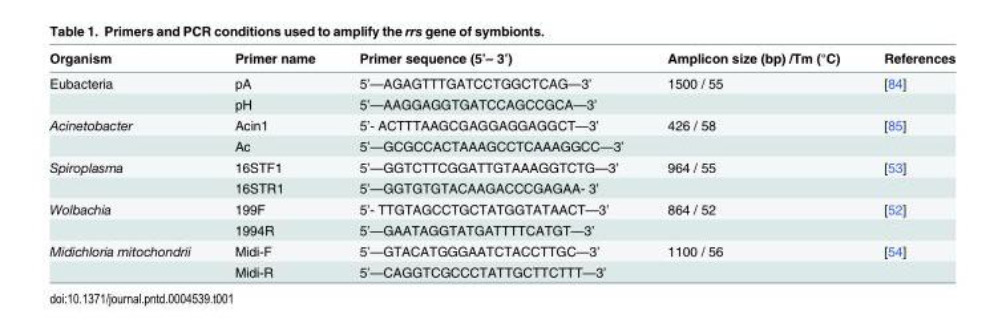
<table><thead><tr><td>Organism</td><td>Primer name</td><td>Primer sequence (5’– 3’)</td><td>Amplicon size (bp) /Tm (°C)</td><td>References</td></tr></thead><tbody><tr><td rowspan="2">Eubacteria</td><td>pA</td><td>5’—AGAGTTTGATCCTGGCTCAG—3’</td><td>1500 / 55</td><td>[84]</td></tr><tr><td>pH</td><td>5’—AAGGAGGTGATCCAGCCGCA—3’</td><td></td><td></td></tr><tr><td rowspan="2">Acinetobacter</td><td>Acin1</td><td>5’- ACTTTAAGCGAGGAGGAGGCT—3’</td><td>426 / 58</td><td>[85]</td></tr><tr><td>Ac</td><td>5’—GCGCCACTAAAGCCTCAAAGGCC—3’</td><td></td><td></td></tr><tr><td rowspan="2">Spiroplasma</td><td>16STF1</td><td>5’—GGTCTTCGGATTGTAAAGGTCTG—3’</td><td>964 / 55</td><td>[53]</td></tr><tr><td>16STR1</td><td>5’—GGTGTGTACAAGACCCGAGAA- 3’</td><td></td><td></td></tr><tr><td rowspan="2">Wolbachia</td><td>199F</td><td>5’- TTGTAGCCTGCTATGGTATAACT—3’</td><td>864 / 52</td><td>[52]</td></tr><tr><td>1994R</td><td>5’—GAATAGGTATGATTTTCATGT—3’</td><td></td><td></td></tr><tr><td rowspan="2">Midichloria mitochondrii</td><td>Midi-F</td><td>5’—GTACATGGGAATCTACCTTGC—3’</td><td>1100 / 56</td><td>[54]</td></tr><tr><td>Midi-R</td><td>5’—CAGGTCGCCCTATTGCTTCTTT—3’</td><td></td><td></td></tr></tbody></table>